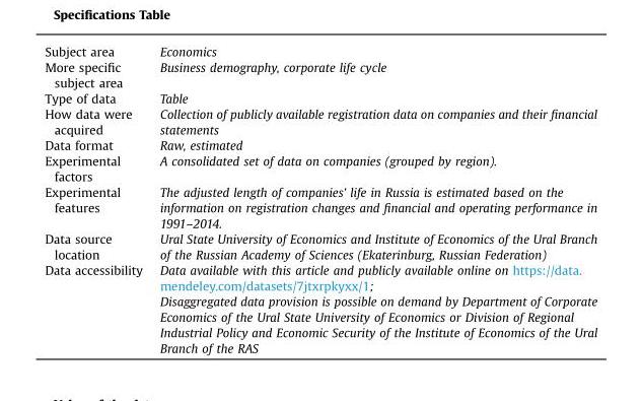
<table><tbody><tr><td>Subject area</td><td>Economics</td></tr><tr><td>More specific subject area</td><td>Business demography, corporate life cycle</td></tr><tr><td>Type of data</td><td>Table</td></tr><tr><td>How data were acquired</td><td>Collection of publicly available registration data on companies and their financial statements</td></tr><tr><td>Data format</td><td>Raw, estimated</td></tr><tr><td>Experimental factors</td><td>A consolidated set of data on companies (grouped by region).</td></tr><tr><td>Experimental features</td><td>The adjusted length of companies’ life in Russia is estimated based on the information on registration changes and financial and operating performance in 1991–2014.</td></tr><tr><td>Data source location</td><td>Ural State University of Economics and Institute of Economics of the Ural Branch of the Russian Academy of Sciences (Ekaterinburg, Russian Federation)</td></tr><tr><td rowspan="2">Data accessibility</td><td>Data available with this article and publicly available online on https://data. mendeley.com/datasets/7jtxrpkyxx/1;</td></tr><tr><td>Disaggregated data provision is possible on demand by Department of Corporate Economics of the Ural State University of Economics or Division of Regional Industrial Policy and Economic Security of the Institute of Economics of the Ural Branch of the RAS</td></tr></tbody></table>